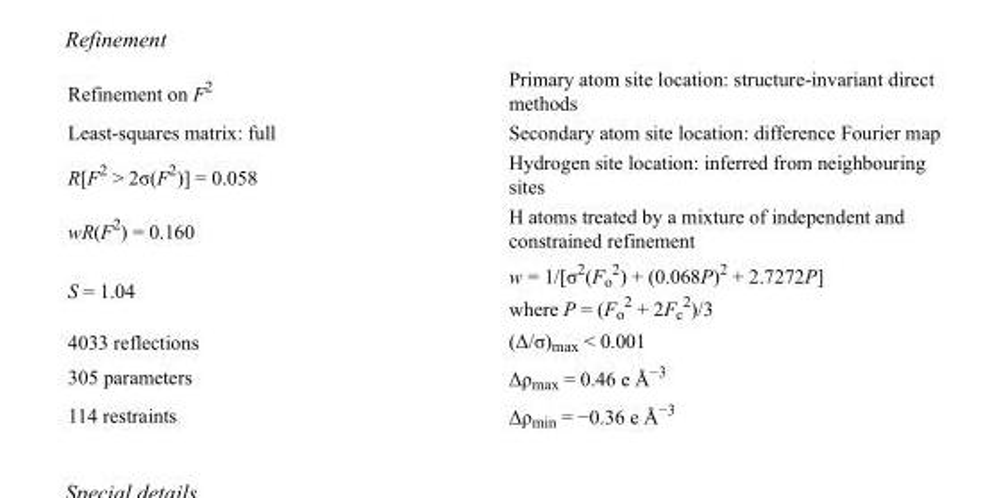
<table><tbody><tr><td>Refinement on F<sup>2</sup></td><td>Primary atom site location: structure-invariant direct methods</td></tr><tr><td>Least-squares matrix: full</td><td>Secondary atom site location: difference Fourier map</td></tr><tr><td>R[F<sup>2</sup> &gt; 2σ(F<sup>2</sup>)] = 0.058</td><td>Hydrogen site location: inferred from neighbouring sites</td></tr><tr><td>wR(F<sup>2</sup>) = 0.160</td><td>H atoms treated by a mixture of independent and constrained refinement</td></tr><tr><td>S = 1.04</td><td>w = 1/[σ<sup>2</sup>(F<sub>o</sub> <sup>2</sup>) + (0.068P)<sup>2</sup> + 2.7272P] where P = (F<sub>o</sub> <sup>2</sup> + 2F<sub>c</sub> <sup>2</sup>)/3</td></tr><tr><td>4033 reflections</td><td>(Δ/σ)<sub>max</sub> &lt; 0.001</td></tr><tr><td>305 parameters</td><td>Δρ<sub>max</sub> = 0.46 e Å<sup>−3</sup></td></tr><tr><td>114 restraints</td><td>Δρ<sub>min</sub> = −0.36 e Å<sup>−3</sup></td></tr></tbody></table>